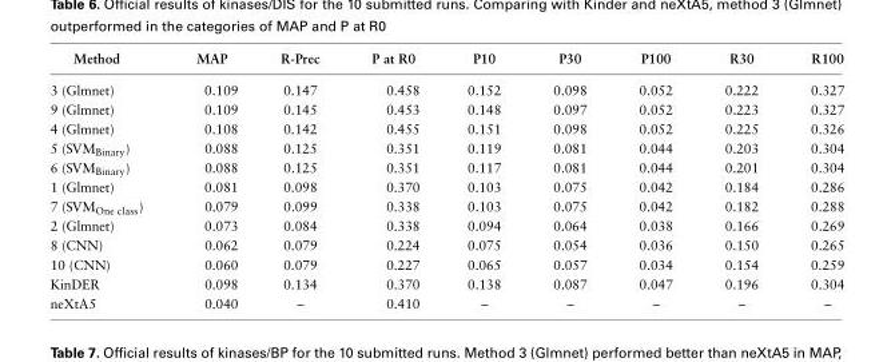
<table><thead><tr><td>Method</td><td>MAP</td><td>R-Prec</td><td>P at R0</td><td>P10</td><td>P30</td><td>P100</td><td>R30</td><td>R100</td></tr></thead><tbody><tr><td>3 (Glmnet)</td><td>0.109</td><td>0.147</td><td>0.458</td><td>0.152</td><td>0.098</td><td>0.052</td><td>0.222</td><td>0.327</td></tr><tr><td>9 (Glmnet)</td><td>0.109</td><td>0.145</td><td>0.453</td><td>0.148</td><td>0.097</td><td>0.052</td><td>0.223</td><td>0.327</td></tr><tr><td>4 (Glmnet)</td><td>0.108</td><td>0.142</td><td>0.455</td><td>0.151</td><td>0.098</td><td>0.052</td><td>0.225</td><td>0.326</td></tr><tr><td>5 (SVM<sub>Binary</sub>)</td><td>0.088</td><td>0.125</td><td>0.351</td><td>0.119</td><td>0.081</td><td>0.044</td><td>0.203</td><td>0.304</td></tr><tr><td>6 (SVM<sub>Binary</sub>)</td><td>0.088</td><td>0.125</td><td>0.351</td><td>0.117</td><td>0.081</td><td>0.044</td><td>0.201</td><td>0.304</td></tr><tr><td>1 (Glmnet)</td><td>0.081</td><td>0.098</td><td>0.370</td><td>0.103</td><td>0.075</td><td>0.042</td><td>0.184</td><td>0.286</td></tr><tr><td>7 (SVM<sub>One class</sub>)</td><td>0.079</td><td>0.099</td><td>0.338</td><td>0.103</td><td>0.075</td><td>0.042</td><td>0.182</td><td>0.288</td></tr><tr><td>2 (Glmnet)</td><td>0.073</td><td>0.084</td><td>0.338</td><td>0.094</td><td>0.064</td><td>0.038</td><td>0.166</td><td>0.269</td></tr><tr><td>8 (CNN)</td><td>0.062</td><td>0.079</td><td>0.224</td><td>0.075</td><td>0.054</td><td>0.036</td><td>0.150</td><td>0.265</td></tr><tr><td>10 (CNN)</td><td>0.060</td><td>0.079</td><td>0.227</td><td>0.065</td><td>0.057</td><td>0.034</td><td>0.154</td><td>0.259</td></tr><tr><td>KinDER</td><td>0.098</td><td>0.134</td><td>0.370</td><td>0.138</td><td>0.087</td><td>0.047</td><td>0.196</td><td>0.304</td></tr><tr><td>neXtA5</td><td>0.040</td><td>–</td><td>0.410</td><td>–</td><td>–</td><td>–</td><td>–</td><td>–</td></tr></tbody></table>